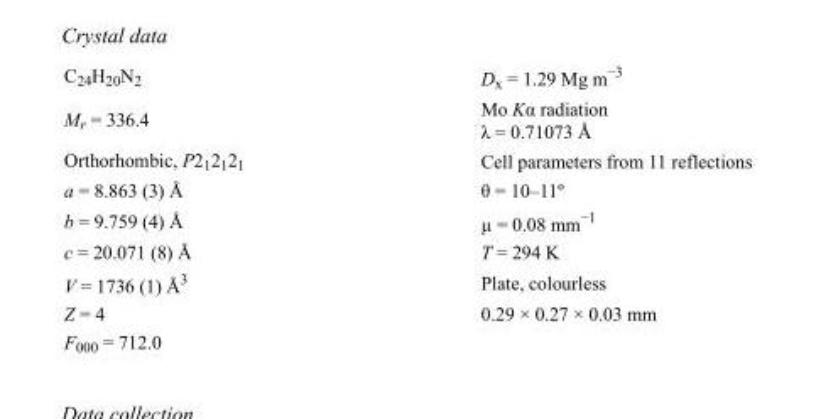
<table><tbody><tr><td>C<sub>24</sub>H<sub>20</sub>N<sub>2</sub></td><td>D<sub>x</sub> = 1.29 Mg m<sup>−3</sup></td></tr><tr><td>M<sub>r</sub> = 336.4</td><td>Mo Kα radiation λ = 0.71073 Å</td></tr><tr><td>Orthorhombic, P2<sub>1</sub>2<sub>1</sub>2<sub>1</sub></td><td>Cell parameters from 11 reflections</td></tr><tr><td>a = 8.863 (3) Å</td><td>θ = 10–11º</td></tr><tr><td>b = 9.759 (4) Å</td><td>µ = 0.08 mm<sup>−1</sup></td></tr><tr><td>c = 20.071 (8) Å</td><td>T = 294 K</td></tr><tr><td>V = 1736 (1) Å<sup>3</sup></td><td>Plate, colourless</td></tr><tr><td>Z = 4</td><td>0.29 × 0.27 × 0.03 mm</td></tr><tr><td>F<sub>000</sub> = 712.0</td><td></td></tr></tbody></table>